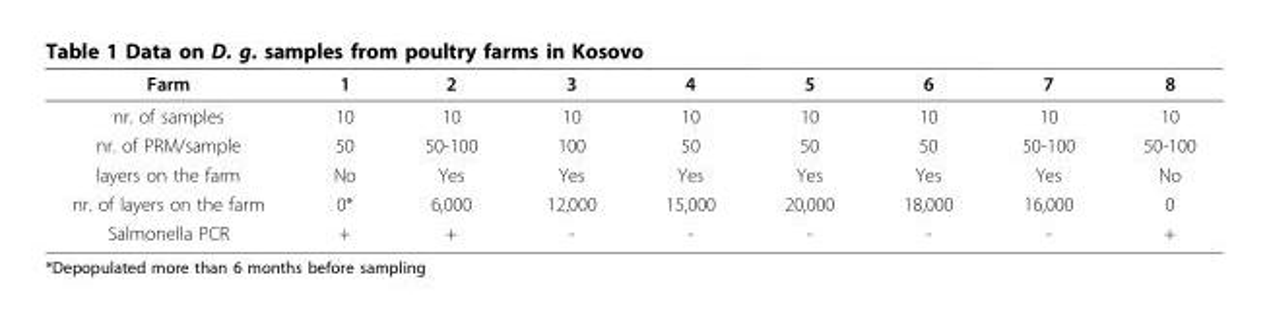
<table><thead><tr><td>Farm</td><td>1</td><td>2</td><td>3</td><td>4</td><td>5</td><td>6</td><td>7</td><td>8</td></tr></thead><tbody><tr><td>nr. of samples</td><td>10</td><td>10</td><td>10</td><td>10</td><td>10</td><td>10</td><td>10</td><td>10</td></tr><tr><td>nr. of PRM/sample</td><td>50</td><td>50-100</td><td>100</td><td>50</td><td>50</td><td>50</td><td>50-100</td><td>50-100</td></tr><tr><td>layers on the farm</td><td>No</td><td>Yes</td><td>Yes</td><td>Yes</td><td>Yes</td><td>Yes</td><td>Yes</td><td>No</td></tr><tr><td>nr. of layers on the farm</td><td>0*</td><td>6,000</td><td>12,000</td><td>15,000</td><td>20,000</td><td>18,000</td><td>16,000</td><td>0</td></tr><tr><td>Salmonella PCR</td><td>+</td><td>+</td><td>-</td><td>-</td><td>-</td><td>-</td><td>-</td><td>+</td></tr></tbody></table>